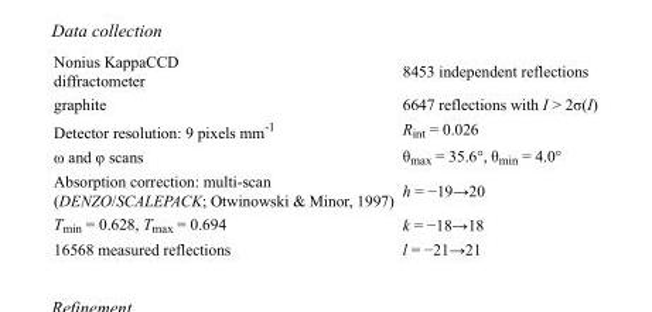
<table><tbody><tr><td>Nonius KappaCCD diffractometer</td><td>8453 independent reflections</td></tr><tr><td>graphite</td><td>6647 reflections with I &gt; 2σ(I)</td></tr><tr><td>Detector resolution: 9 pixels mm<sup>-1</sup></td><td>R<sub>int</sub> = 0.026</td></tr><tr><td>ω and φ scans</td><td>θ<sub>max</sub> = 35.6°, θ<sub>min</sub> = 4.0°</td></tr><tr><td>Absorption correction: multi-scan (DENZO/SCALEPACK; Otwinowski &amp; Minor, 1997)</td><td>h = −19→20</td></tr><tr><td>T<sub>min</sub> = 0.628, T<sub>max</sub> = 0.694</td><td>k = −18→18</td></tr><tr><td>16568 measured reflections</td><td>l = −21→21</td></tr></tbody></table>